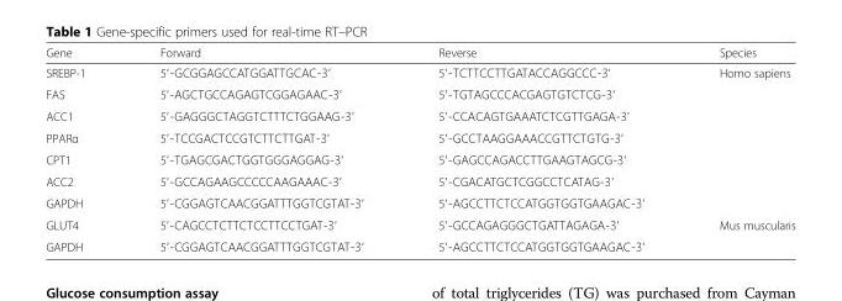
<table><thead><tr><td>Gene</td><td>Forward</td><td>Reverse</td><td>Species</td></tr></thead><tbody><tr><td>SREBP-1</td><td>5′-GCGGAGCCATGGATTGCAC-3′</td><td>5′-TCTTCCTTGATACCAGGCCC-3′</td><td rowspan="7">Homo sapiens</td></tr><tr><td>FAS</td><td>5′-AGCTGCCAGAGTCGGAGAAC-3′</td><td>5′-TGTAGCCCACGAGTGTCTCG-3′</td></tr><tr><td>ACC1</td><td>5′-GAGGGCTAGGTCTTTCTGGAAG-3′</td><td>5′-CCACAGTGAAATCTCGTTGAGA-3′</td></tr><tr><td>PPARα</td><td>5′-TCCGACTCCGTCTTCTTGAT-3′</td><td>5′-GCCTAAGGAAACCGTTCTGTG-3′</td></tr><tr><td>CPT1</td><td>5′-TGAGCGACTGGTGGGAGGAG-3′</td><td>5′-GAGCCAGACCTTGAAGTAGCG-3′</td></tr><tr><td>ACC2</td><td>5′-GCCAGAAGCCCCCAAGAAAC-3′</td><td>5′-CGACATGCTCGGCCTCATAG-3′</td></tr><tr><td>GAPDH</td><td>5′-CGGAGTCAACGGATTTGGTCGTAT-3′</td><td>5′-AGCCTTCTCCATGGTGGTGAAGAC-3′</td></tr><tr><td>GLUT4</td><td>5′-CAGCCTCTTCTCCTTCCTGAT-3′</td><td>5′-GCCAGAGGGCTGATTAGAGA-3′</td><td rowspan="2">Mus muscularis</td></tr><tr><td>GAPDH</td><td>5′-CGGAGTCAACGGATTTGGTCGTAT-3′</td><td>5′-AGCCTTCTCCATGGTGGTGAAGAC-3′</td></tr></tbody></table>